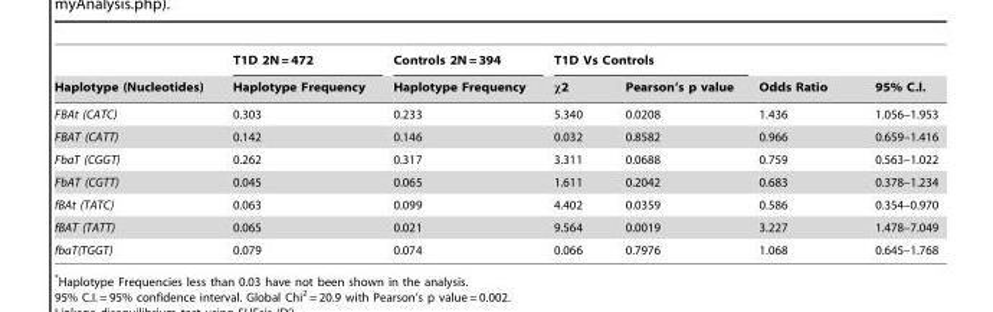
<table><thead><tr><td rowspan="2">Haplotype (Nucleotides)</td><td rowspan="2">T1D 2N = 472 Haplotype Frequency</td><td rowspan="2">Controls 2N = 394 Haplotype Frequency</td><td colspan="2">T1D Vs Controls</td><td rowspan="2">Odds Ratio</td><td rowspan="2">95% C.I.</td></tr><tr><td>χ2</td><td>Pearson’s p value</td></tr></thead><tbody><tr><td>FBAt (CATC)</td><td>0.303</td><td>0.233</td><td>5.340</td><td>0.0208</td><td>1.436</td><td>1.056–1.953</td></tr><tr><td>FBAT (CATT)</td><td>0.142</td><td>0.146</td><td>0.032</td><td>0.8582</td><td>0.966</td><td>0.659–1.416</td></tr><tr><td>FbaT (CGGT)</td><td>0.262</td><td>0.317</td><td>3.311</td><td>0.0688</td><td>0.759</td><td>0.563–1.022</td></tr><tr><td>FbAT (CGTT)</td><td>0.045</td><td>0.065</td><td>1.611</td><td>0.2042</td><td>0.683</td><td>0.378–1.234</td></tr><tr><td>fBAt (TATC)</td><td>0.063</td><td>0.099</td><td>4.402</td><td>0.0359</td><td>0.586</td><td>0.354–0.970</td></tr><tr><td>fBAT (TATT)</td><td>0.065</td><td>0.021</td><td>9.564</td><td>0.0019</td><td>3.227</td><td>1.478–7.049</td></tr><tr><td>fbaT(TGGT)</td><td>0.079</td><td>0.074</td><td>0.066</td><td>0.7976</td><td>1.068</td><td>0.645–1.768</td></tr></tbody></table>